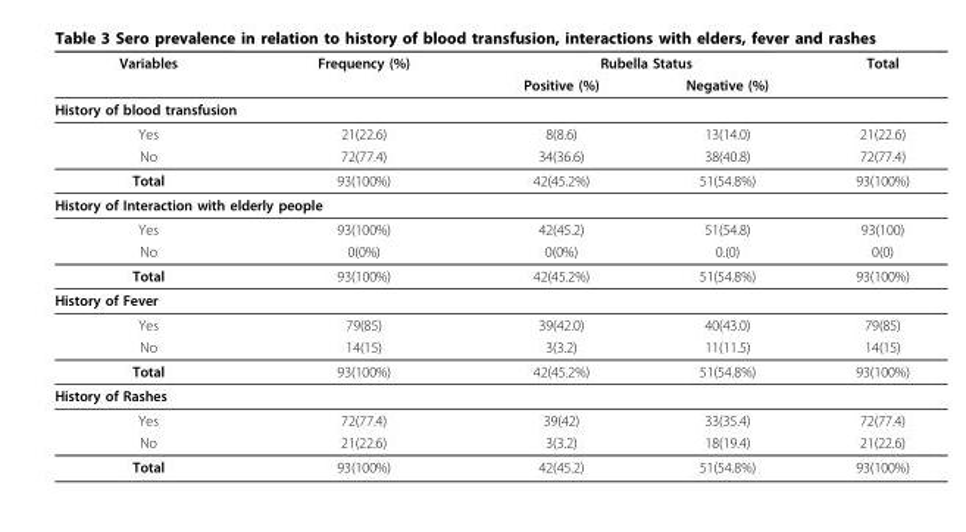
<table><thead><tr><td rowspan="2">Variables</td><td rowspan="2">Frequency (%)</td><td colspan="2">Rubella Status</td><td rowspan="2">Total</td></tr><tr><td>Positive (%)</td><td>Negative (%)</td></tr></thead><tbody><tr><td colspan="5">History of blood transfusion</td></tr><tr><td>Yes</td><td>21(22.6)</td><td>8(8.6)</td><td>13(14.0)</td><td>21(22.6)</td></tr><tr><td>No</td><td>72(77.4)</td><td>34(36.6)</td><td>38(40.8)</td><td>72(77.4)</td></tr><tr><td>Total</td><td>93(100%)</td><td>42(45.2%)</td><td>51(54.8%)</td><td>93(100%)</td></tr><tr><td colspan="5">History of Interaction with elderly people</td></tr><tr><td>Yes</td><td>93(100%)</td><td>42(45.2)</td><td>51(54.8)</td><td>93(100)</td></tr><tr><td>No</td><td>0(0%)</td><td>0(0%)</td><td>0.(0)</td><td>0(0)</td></tr><tr><td>Total</td><td>93(100%)</td><td>42(45.2%)</td><td>51(54.8%)</td><td>93(100%)</td></tr><tr><td colspan="5">History of Fever</td></tr><tr><td>Yes</td><td>79(85)</td><td>39(42.0)</td><td>40(43.0)</td><td>79(85)</td></tr><tr><td>No</td><td>14(15)</td><td>3(3.2)</td><td>11(11.5)</td><td>14(15)</td></tr><tr><td>Total</td><td>93(100%)</td><td>42(45.2%)</td><td>51(54.8%)</td><td>93(100%)</td></tr><tr><td colspan="5">History of Rashes</td></tr><tr><td>Yes</td><td>72(77.4)</td><td>39(42)</td><td>33(35.4)</td><td>72(77.4)</td></tr><tr><td>No</td><td>21(22.6)</td><td>3(3.2)</td><td>18(19.4)</td><td>21(22.6)</td></tr><tr><td>Total</td><td>93(100%)</td><td>42(45.2)</td><td>51(54.8%)</td><td>93(100%)</td></tr></tbody></table>